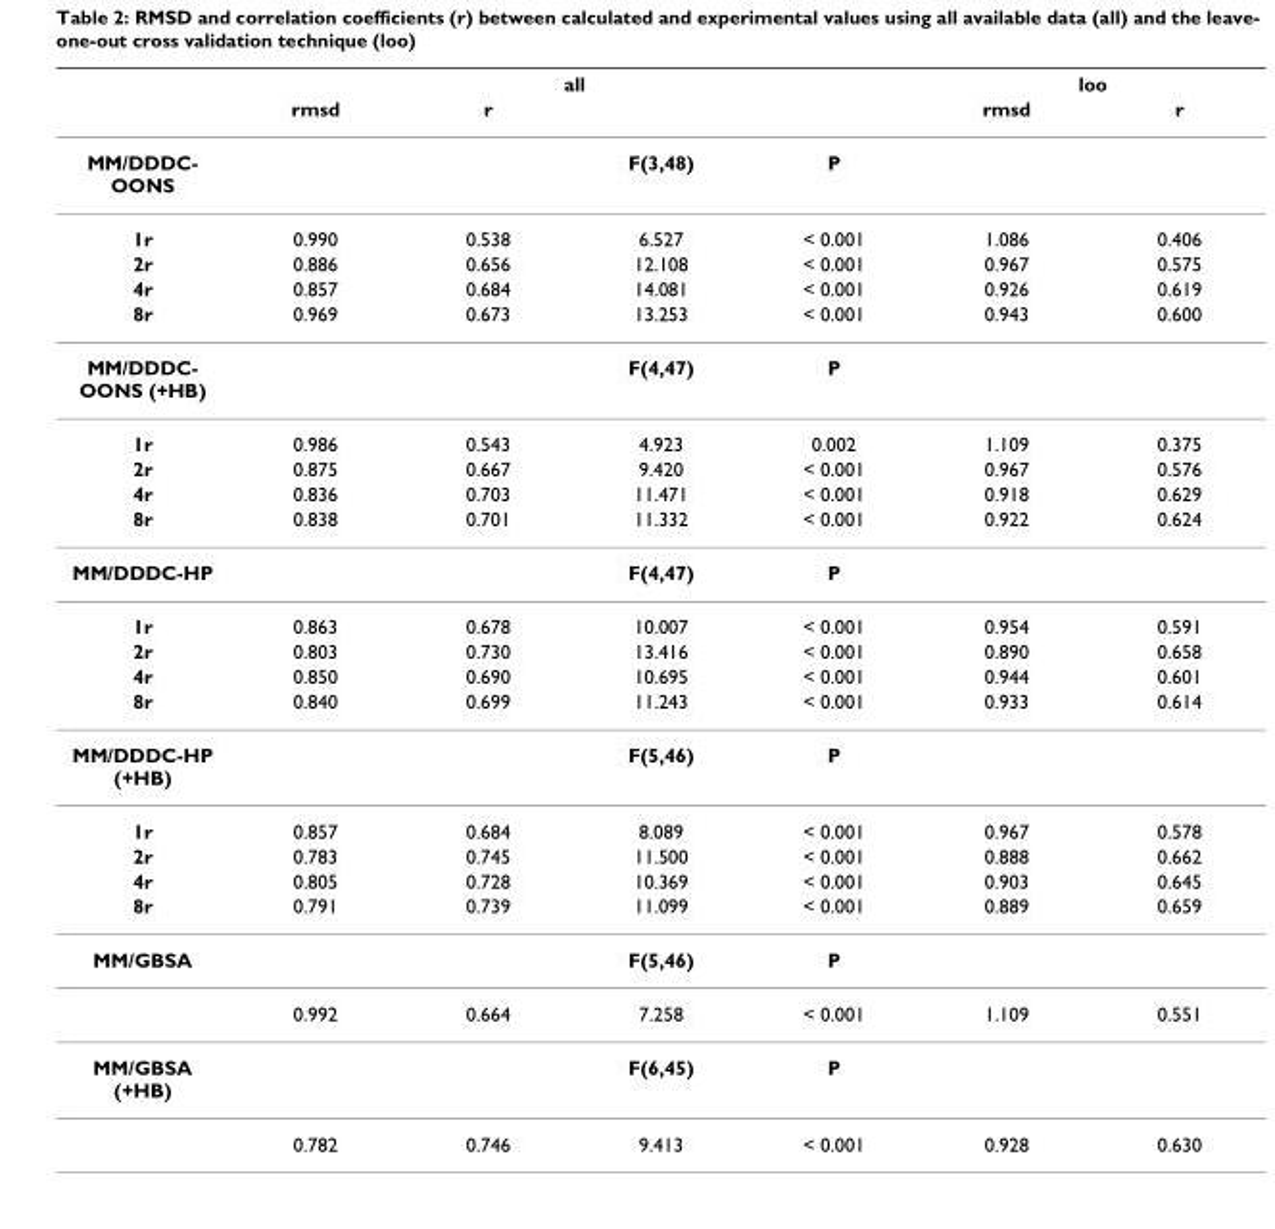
<table><thead><tr><td rowspan="2"></td><td colspan="4">all</td><td colspan="2">loo</td></tr><tr><td>rmsd</td><td>r</td><td></td><td></td><td>rmsd</td><td>r</td></tr></thead><tbody><tr><td>MM/DDDC- OONS</td><td></td><td></td><td>F(3,48)</td><td>P</td><td></td><td></td></tr><tr><td>1r</td><td>0.990</td><td>0.538</td><td>6.527</td><td>&lt; 0.001</td><td>1.086</td><td>0.406</td></tr><tr><td>2r</td><td>0.886</td><td>0.656</td><td>12.108</td><td>&lt; 0.001</td><td>0.967</td><td>0.575</td></tr><tr><td>4r</td><td>0.857</td><td>0.684</td><td>14.081</td><td>&lt; 0.001</td><td>0.926</td><td>0.619</td></tr><tr><td>8r</td><td>0.969</td><td>0.673</td><td>13.253</td><td>&lt; 0.001</td><td>0.943</td><td>0.600</td></tr><tr><td>MM/DDDC- OONS (+HB)</td><td></td><td></td><td>F(4,47)</td><td>P</td><td></td><td></td></tr><tr><td>1r</td><td>0.986</td><td>0.543</td><td>4.923</td><td>0.002</td><td>1.109</td><td>0.375</td></tr><tr><td>2r</td><td>0.875</td><td>0.667</td><td>9.420</td><td>&lt; 0.001</td><td>0.967</td><td>0.576</td></tr><tr><td>4r</td><td>0.836</td><td>0.703</td><td>11.471</td><td>&lt; 0.001</td><td>0.918</td><td>0.629</td></tr><tr><td>8r</td><td>0.838</td><td>0.701</td><td>11.332</td><td>&lt; 0.001</td><td>0.922</td><td>0.624</td></tr><tr><td>MM/DDDC-HP</td><td></td><td></td><td>F(4,47)</td><td>P</td><td></td><td></td></tr><tr><td>1r</td><td>0.863</td><td>0.678</td><td>10.007</td><td>&lt; 0.001</td><td>0.954</td><td>0.591</td></tr><tr><td>2r</td><td>0.803</td><td>0.730</td><td>13.416</td><td>&lt; 0.001</td><td>0.890</td><td>0.658</td></tr><tr><td>4r</td><td>0.850</td><td>0.690</td><td>10.695</td><td>&lt; 0.001</td><td>0.944</td><td>0.601</td></tr><tr><td>8r</td><td>0.840</td><td>0.699</td><td>11.243</td><td>&lt; 0.001</td><td>0.933</td><td>0.614</td></tr><tr><td>MM/DDDC-HP (+HB)</td><td></td><td></td><td>F(5,46)</td><td>P</td><td></td><td></td></tr><tr><td>1r</td><td>0.857</td><td>0.684</td><td>8.089</td><td>&lt; 0.001</td><td>0.967</td><td>0.578</td></tr><tr><td>2r</td><td>0.783</td><td>0.745</td><td>11.500</td><td>&lt; 0.001</td><td>0.888</td><td>0.662</td></tr><tr><td>4r</td><td>0.805</td><td>0.728</td><td>10.369</td><td>&lt; 0.001</td><td>0.903</td><td>0.645</td></tr><tr><td>8r</td><td>0.791</td><td>0.739</td><td>11.099</td><td>&lt; 0.001</td><td>0.889</td><td>0.659</td></tr><tr><td rowspan="2">MM/GBSA</td><td></td><td></td><td>F(5,46)</td><td>P</td><td></td><td></td></tr><tr><td>0.992</td><td>0.664</td><td>7.258</td><td>&lt; 0.001</td><td>1.109</td><td>0.551</td></tr><tr><td rowspan="2">MM/GBSA (+HB)</td><td></td><td></td><td>F(6,45)</td><td>P</td><td></td><td></td></tr><tr><td>0.782</td><td>0.746</td><td>9.413</td><td>&lt; 0.001</td><td>0.928</td><td>0.630</td></tr></tbody></table>